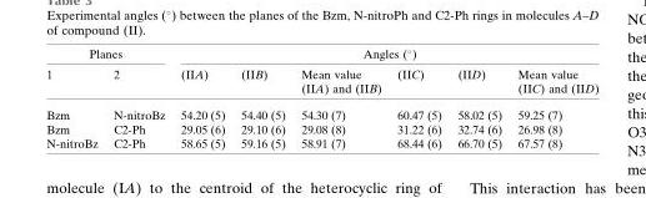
<table><thead><tr><td colspan="2">Planes</td><td colspan="6">Angles (°)</td></tr><tr><td rowspan="2">1</td><td rowspan="2">2</td><td rowspan="2">(IIA)</td><td rowspan="2">(IIB)</td><td rowspan="2">Mean value (IIA) and (IIB)</td><td rowspan="2">(IIC)</td><td rowspan="2">(IID)</td><td rowspan="2">Mean value (IIC) and (IID)</td></tr><tr></tr></thead><tbody><tr><td>Bzm</td><td>N-nitroBz</td><td>54.20 (5)</td><td>54.40 (5)</td><td>54.30 (7)</td><td>60.47 (5)</td><td>58.02 (5)</td><td>59.25 (7)</td></tr><tr><td>Bzm</td><td>C2-Ph</td><td>29.05 (6)</td><td>29.10 (6)</td><td>29.08 (8)</td><td>31.22 (6)</td><td>32.74 (6)</td><td>26.98 (8)</td></tr><tr><td>N-nitroBz</td><td>C2-Ph</td><td>58.65 (5)</td><td>59.16 (5)</td><td>58.91 (7)</td><td>68.44 (6)</td><td>66.70 (5)</td><td>67.57 (8)</td></tr></tbody></table>